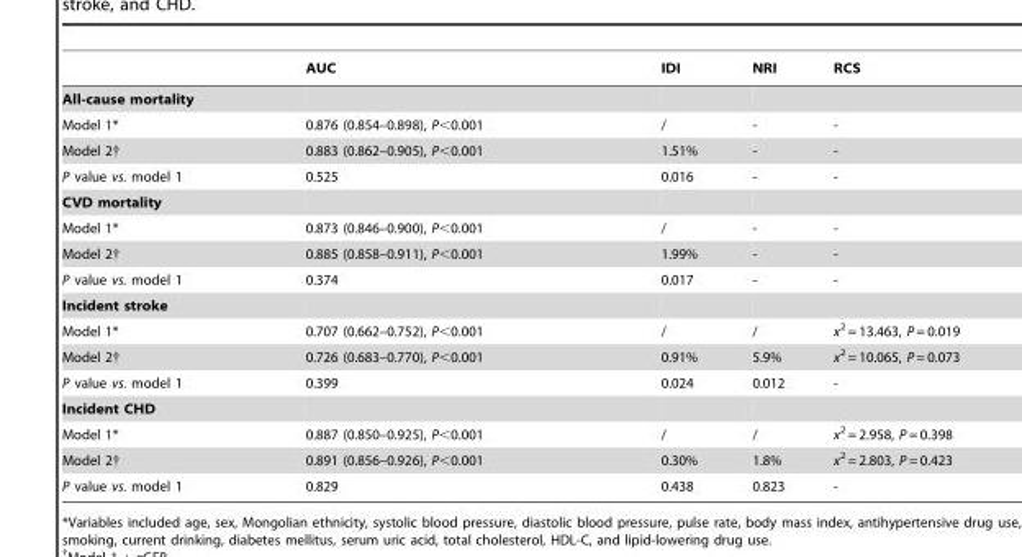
<table><thead><tr><td></td><td>AUC</td><td>IDI</td><td>NRI</td><td>RCS</td></tr></thead><tbody><tr><td colspan="5">All-cause mortality</td></tr><tr><td>Model 1*</td><td>0.876 (0.854–0.898), P&lt;0.001</td><td>/</td><td>-</td><td>-</td></tr><tr><td>Model 2†</td><td>0.883 (0.862–0.905), P&lt;0.001</td><td>1.51%</td><td>-</td><td>-</td></tr><tr><td>P value vs. model 1</td><td>0.525</td><td>0.016</td><td>-</td><td>-</td></tr><tr><td colspan="5">CVD mortality</td></tr><tr><td>Model 1*</td><td>0.873 (0.846–0.900), P&lt;0.001</td><td>/</td><td>-</td><td>-</td></tr><tr><td>Model 2†</td><td>0.885 (0.858–0.911), P&lt;0.001</td><td>1.99%</td><td>-</td><td>-</td></tr><tr><td>P value vs. model 1</td><td>0.374</td><td>0.017</td><td>-</td><td>-</td></tr><tr><td colspan="5">Incident stroke</td></tr><tr><td>Model 1*</td><td>0.707 (0.662–0.752), P&lt;0.001</td><td>/</td><td>/</td><td>x<sup>2</sup> = 13.463, P = 0.019</td></tr><tr><td>Model 2†</td><td>0.726 (0.683–0.770), P&lt;0.001</td><td>0.91%</td><td>5.9%</td><td>x<sup>2</sup> = 10.065, P = 0.073</td></tr><tr><td>P value vs. model 1</td><td>0.399</td><td>0.024</td><td>0.012</td><td>-</td></tr><tr><td colspan="5">Incident CHD</td></tr><tr><td>Model 1*</td><td>0.887 (0.850–0.925), P&lt;0.001</td><td>/</td><td>/</td><td>x<sup>2</sup> = 2.958, P = 0.398</td></tr><tr><td>Model 2†</td><td>0.891 (0.856–0.926), P&lt;0.001</td><td>0.30%</td><td>1.8%</td><td>x<sup>2</sup> = 2.803, P = 0.423</td></tr><tr><td>P value vs. model 1</td><td>0.829</td><td>0.438</td><td>0.823</td><td>-</td></tr></tbody></table>